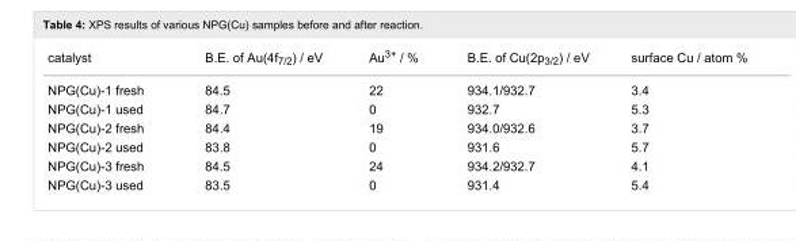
<table><tbody><tr><td>catalyst</td><td>B.E. of Au(4f<sub>7/2</sub>) / eV</td><td>Au<sup>3+</sup> / %</td><td>B.E. of Cu(2p<sub>3/2</sub>) / eV</td><td>surface Cu / atom %</td></tr><tr><td>NPG(Cu)-1 fresh</td><td>84.5</td><td>22</td><td>934.1/932.7</td><td>3.4</td></tr><tr><td>NPG(Cu)-1 used</td><td>84.7</td><td>0</td><td>932.7</td><td>5.3</td></tr><tr><td>NPG(Cu)-2 fresh</td><td>84.4</td><td>19</td><td>934.0/932.6</td><td>3.7</td></tr><tr><td>NPG(Cu)-2 used</td><td>83.8</td><td>0</td><td>931.6</td><td>5.7</td></tr><tr><td>NPG(Cu)-3 fresh</td><td>84.5</td><td>24</td><td>934.2/932.7</td><td>4.1</td></tr><tr><td>NPG(Cu)-3 used</td><td>83.5</td><td>0</td><td>931.4</td><td>5.4</td></tr></tbody></table>